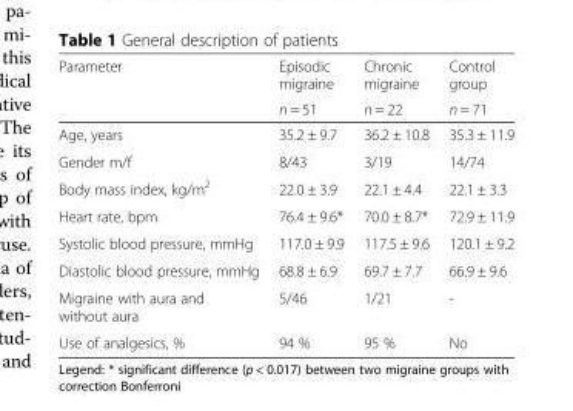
<table><thead><tr><td rowspan="2">Parameter</td><td rowspan="2">Episodic migraine n = 51</td><td rowspan="2">Chronic migraine n = 22</td><td rowspan="2">Control group n = 71</td></tr><tr></tr></thead><tbody><tr><td>Age, years</td><td>35.2 ± 9.7</td><td>36.2 ± 10.8</td><td>35.3 ± 11.9</td></tr><tr><td>Gender m/f</td><td>8/43</td><td>3/19</td><td>14/74</td></tr><tr><td>Body mass index, kg/m<sup>2</sup></td><td>22.0 ± 3.9</td><td>22.1 ± 4.4</td><td>22.1 ± 3.3</td></tr><tr><td>Heart rate, bpm</td><td>76.4 ± 9.6*</td><td>70.0 ± 8.7*</td><td>72.9 ± 11.9</td></tr><tr><td>Systolic blood pressure, mmHg</td><td>117.0 ± 9.9</td><td>117.5 ± 9.6</td><td>120.1 ± 9.2</td></tr><tr><td>Diastolic blood pressure, mmHg</td><td>68.8 ± 6.9</td><td>69.7 ± 7.7</td><td>66.9 ± 9.6</td></tr><tr><td>Migraine with aura and without aura</td><td>5/46</td><td>1/21</td><td>-</td></tr><tr><td>Use of analgesics, %</td><td>94 %</td><td>95 %</td><td>No</td></tr></tbody></table>